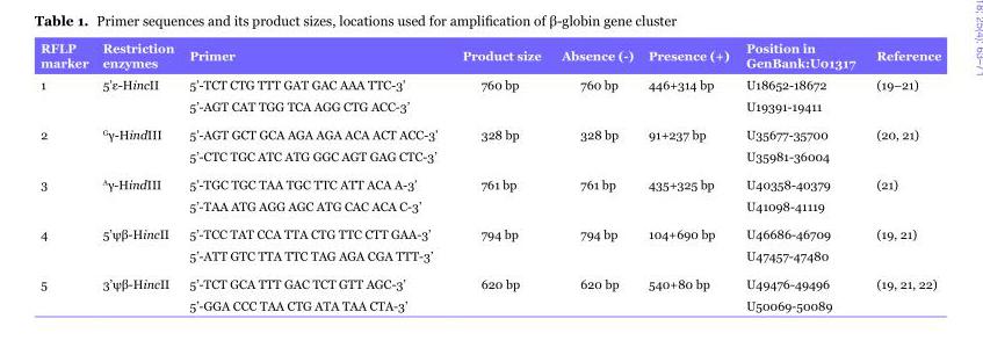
<table><thead><tr><td>RFLP marker</td><td>Restriction enzymes</td><td>Primer</td><td>Product size</td><td>Absence (-)</td><td>Presence (+)</td><td>Position in GenBank:U01317</td><td>Reference</td></tr></thead><tbody><tr><td>1</td><td>5’ε-HincII</td><td>5’-TCT CTG TTT GAT GAC AAA TTC-3’ 5’-AGT CAT TGG TCA AGG CTG ACC-3’</td><td>760 bp</td><td>760 bp</td><td>446+314 bp</td><td>U18652-18672 U19391-19411</td><td>(19–21)</td></tr><tr><td>2</td><td><sup>G</sup>γ-HindIII</td><td>5’-AGT GCT GCA AGA AGA ACA ACT ACC-3’ 5’-CTC TGC ATC ATG GGC AGT GAG CTC-3’</td><td>328 bp</td><td>328 bp</td><td>91+237 bp</td><td>U35677-35700 U35981-36004</td><td>(20, 21)</td></tr><tr><td>3</td><td><sup>A</sup>γ-HindIII</td><td>5’-TGC TGC TAA TGC TTC ATT ACA A-3’ 5’-TAA ATG AGG AGC ATG CAC ACA C-3’</td><td>761 bp</td><td>761 bp</td><td>435+325 bp</td><td>U40358-40379 U41098-41119</td><td>(21)</td></tr><tr><td>4</td><td>5’ψβ-HincII</td><td>5’-TCC TAT CCA TTA CTG TTC CTT GAA-3’ 5’-ATT GTC TTA TTC TAG AGA CGA TTT-3’</td><td>794 bp</td><td>794 bp</td><td>104+690 bp</td><td>U46686-46709 U47457-47480</td><td>(19, 21)</td></tr><tr><td>5</td><td>3’ψβ-HincII</td><td>5’-TCT GCA TTT GAC TCT GTT AGC-3’ 5’-GGA CCC TAA CTG ATA TAA CTA-3’</td><td>620 bp</td><td>620 bp</td><td>540+80 bp</td><td>U49476-49496 U50069-50089</td><td>(19, 21, 22)</td></tr></tbody></table>